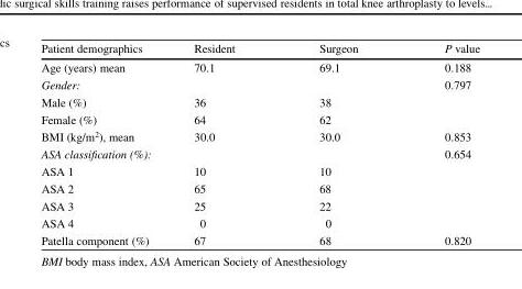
<table><thead><tr><td>Patient demographics</td><td>Resident</td><td>Surgeon</td><td>P value</td></tr></thead><tbody><tr><td>Age (years) mean</td><td>70.1</td><td>69.1</td><td>0.188</td></tr><tr><td>Gender:</td><td></td><td></td><td>0.797</td></tr><tr><td>Male (%)</td><td>36</td><td>38</td><td></td></tr><tr><td>Female (%)</td><td>64</td><td>62</td><td></td></tr><tr><td>BMI (kg/m<sup>2</sup>), mean</td><td>30.0</td><td>30.0</td><td>0.853</td></tr><tr><td>ASA classification (%):</td><td></td><td></td><td>0.654</td></tr><tr><td>ASA 1</td><td>10</td><td>10</td><td></td></tr><tr><td>ASA 2</td><td>65</td><td>68</td><td></td></tr><tr><td>ASA 3</td><td>25</td><td>22</td><td></td></tr><tr><td>ASA 4</td><td>0</td><td>0</td><td></td></tr><tr><td>Patella component (%)</td><td>67</td><td>68</td><td>0.820</td></tr></tbody></table>